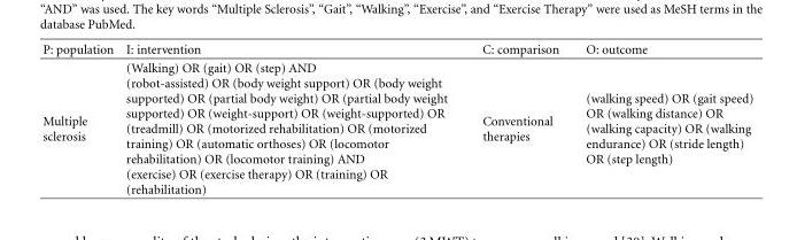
<table><thead><tr><td>P: population</td><td>I: intervention</td><td>C: comparison</td><td>O: outcome</td></tr></thead><tbody><tr><td>Multiple sclerosis</td><td>(Walking) OR (gait) OR (step) AND (robot-assisted) OR (body weight support) OR (body weight supported) OR (partial body weight) OR (partial body weight supported) OR (weight-support) OR (weight-supported) OR (treadmill) OR (motorized rehabilitation) OR (motorized training) OR (automatic orthoses) OR (locomotor rehabilitation) OR (locomotor training) AND (exercise) OR (exercise therapy) OR (training) OR (rehabilitation)</td><td>Conventional therapies</td><td>(walking speed) OR (gait speed) OR (walking distance) OR (walking capacity) OR (walking endurance) OR (stride length) OR (step length)</td></tr></tbody></table>